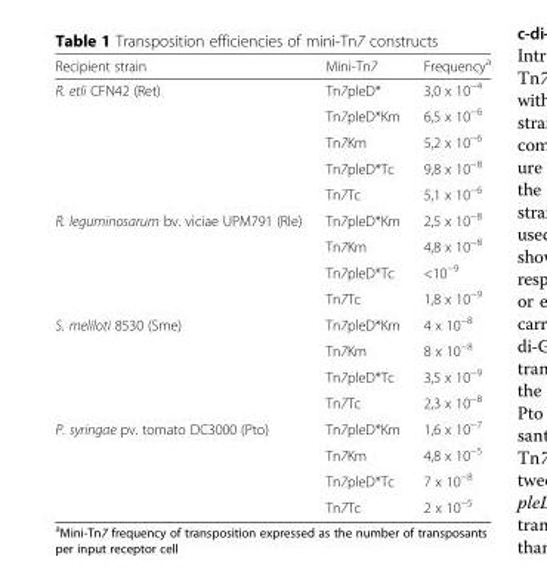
<table><thead><tr><td>Recipient strain</td><td>Mini-Tn7</td><td>Frequency<sup>a</sup></td></tr></thead><tbody><tr><td rowspan="5">R. etli CFN42 (Ret)</td><td>Tn7pleD*</td><td>3,0 x 10<sup>−4</sup></td></tr><tr><td>Tn7pleD*Km</td><td>6,5 x 10<sup>−6</sup></td></tr><tr><td>Tn7Km</td><td>5,2 x 10<sup>−6</sup></td></tr><tr><td>Tn7pleD*Tc</td><td>9,8 x 10<sup>−8</sup></td></tr><tr><td>Tn7Tc</td><td>5,1 x 10<sup>−6</sup></td></tr><tr><td rowspan="4">R. leguminosarum bv. viciae UPM791 (Rle)</td><td>Tn7pleD*Km</td><td>2,5 x 10<sup>−8</sup></td></tr><tr><td>Tn7Km</td><td>4,8 x 10<sup>−8</sup></td></tr><tr><td>Tn7pleD*Tc</td><td>&lt;10<sup>−9</sup></td></tr><tr><td>Tn7Tc</td><td>1,8 x 10<sup>−9</sup></td></tr><tr><td rowspan="4">S. meliloti 8530 (Sme)</td><td>Tn7pleD*Km</td><td>4 x 10<sup>−8</sup></td></tr><tr><td>Tn7Km</td><td>8 x 10<sup>−8</sup></td></tr><tr><td>Tn7pleD*Tc</td><td>3,5 x 10<sup>−9</sup></td></tr><tr><td>Tn7Tc</td><td>2,3 x 10<sup>−8</sup></td></tr><tr><td rowspan="4">P. syringae pv. tomato DC3000 (Pto)</td><td>Tn7pleD*Km</td><td>1,6 x 10<sup>−7</sup></td></tr><tr><td>Tn7Km</td><td>4,8 x 10<sup>−5</sup></td></tr><tr><td>Tn7pleD*Tc</td><td>7 x 10<sup>−8</sup></td></tr><tr><td>Tn7Tc</td><td>2 x 10<sup>−5</sup></td></tr></tbody></table>